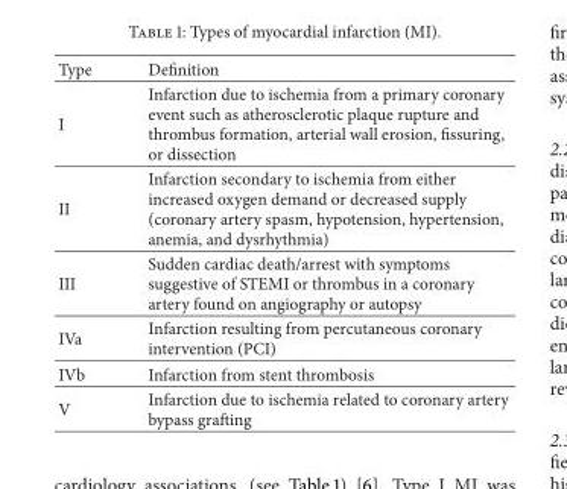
<table><thead><tr><td>Type</td><td>Definition</td></tr></thead><tbody><tr><td>I</td><td>Infarction due to ischemia from a primary coronary event such as atherosclerotic plaque rupture and thrombus formation, arterial wall erosion, fissuring, or dissection</td></tr><tr><td>II</td><td>Infarction secondary to ischemia from either increased oxygen demand or decreased supply (coronary artery spasm, hypotension, hypertension, anemia, and dysrhythmia)</td></tr><tr><td>III</td><td>Sudden cardiac death/arrest with symptoms suggestive of STEMI or thrombus in a coronary artery found on angiography or autopsy</td></tr><tr><td>IVa</td><td>Infarction resulting from percutaneous coronary intervention (PCI)</td></tr><tr><td>IVb</td><td>Infarction from stent thrombosis</td></tr><tr><td>V</td><td>Infarction due to ischemia related to coronary artery bypass grafting</td></tr></tbody></table>